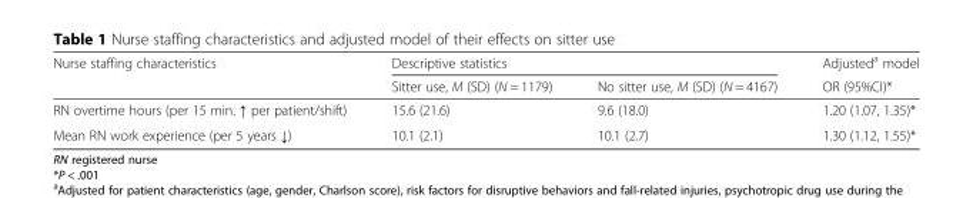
<table><thead><tr><td rowspan="2">Nurse staffing characteristics</td><td colspan="2">Descriptive statistics</td><td rowspan="2">Adjusted<sup>a</sup> model OR (95%CI)*</td></tr><tr><td>Sitter use, M (SD) (N = 1179)</td><td>No sitter use, M (SD) (N = 4167)</td></tr></thead><tbody><tr><td>RN overtime hours (per 15 min. ↑ per patient/shift)</td><td>15.6 (21.6)</td><td>9.6 (18.0)</td><td>1.20 (1.07, 1.35)*</td></tr><tr><td>Mean RN work experience (per 5 years ↓)</td><td>10.1 (2.1)</td><td>10.1 (2.7)</td><td>1.30 (1.12, 1.55)*</td></tr></tbody></table>